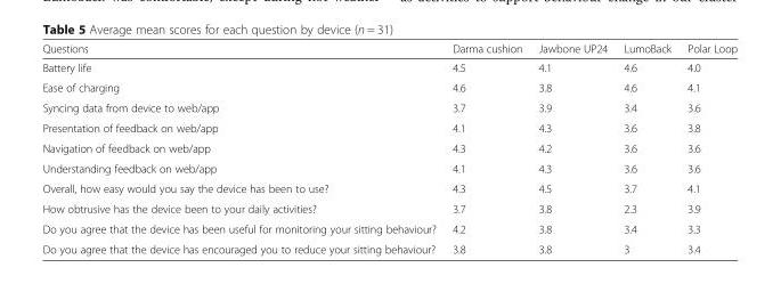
<table><thead><tr><td>Questions</td><td>Darma cushion</td><td>Jawbone UP24</td><td>LumoBack</td><td>Polar Loop</td></tr></thead><tbody><tr><td>Battery life</td><td>4.5</td><td>4.1</td><td>4.6</td><td>4.0</td></tr><tr><td>Ease of charging</td><td>4.6</td><td>3.8</td><td>4.6</td><td>4.1</td></tr><tr><td>Syncing data from device to web/app</td><td>3.7</td><td>3.9</td><td>3.4</td><td>3.6</td></tr><tr><td>Presentation of feedback on web/app</td><td>4.1</td><td>4.3</td><td>3.6</td><td>3.8</td></tr><tr><td>Navigation of feedback on web/app</td><td>4.3</td><td>4.2</td><td>3.6</td><td>3.6</td></tr><tr><td>Understanding feedback on web/app</td><td>4.1</td><td>4.3</td><td>3.6</td><td>3.6</td></tr><tr><td>Overall, how easy would you say the device has been to use?</td><td>4.3</td><td>4.5</td><td>3.7</td><td>4.1</td></tr><tr><td>How obtrusive has the device been to your daily activities?</td><td>3.7</td><td>3.8</td><td>2.3</td><td>3.9</td></tr><tr><td>Do you agree that the device has been useful for monitoring your sitting behaviour?</td><td>4.2</td><td>3.8</td><td>3.4</td><td>3.3</td></tr><tr><td>Do you agree that the device has encouraged you to reduce your sitting behaviour?</td><td>3.8</td><td>3.8</td><td>3</td><td>3.4</td></tr></tbody></table>